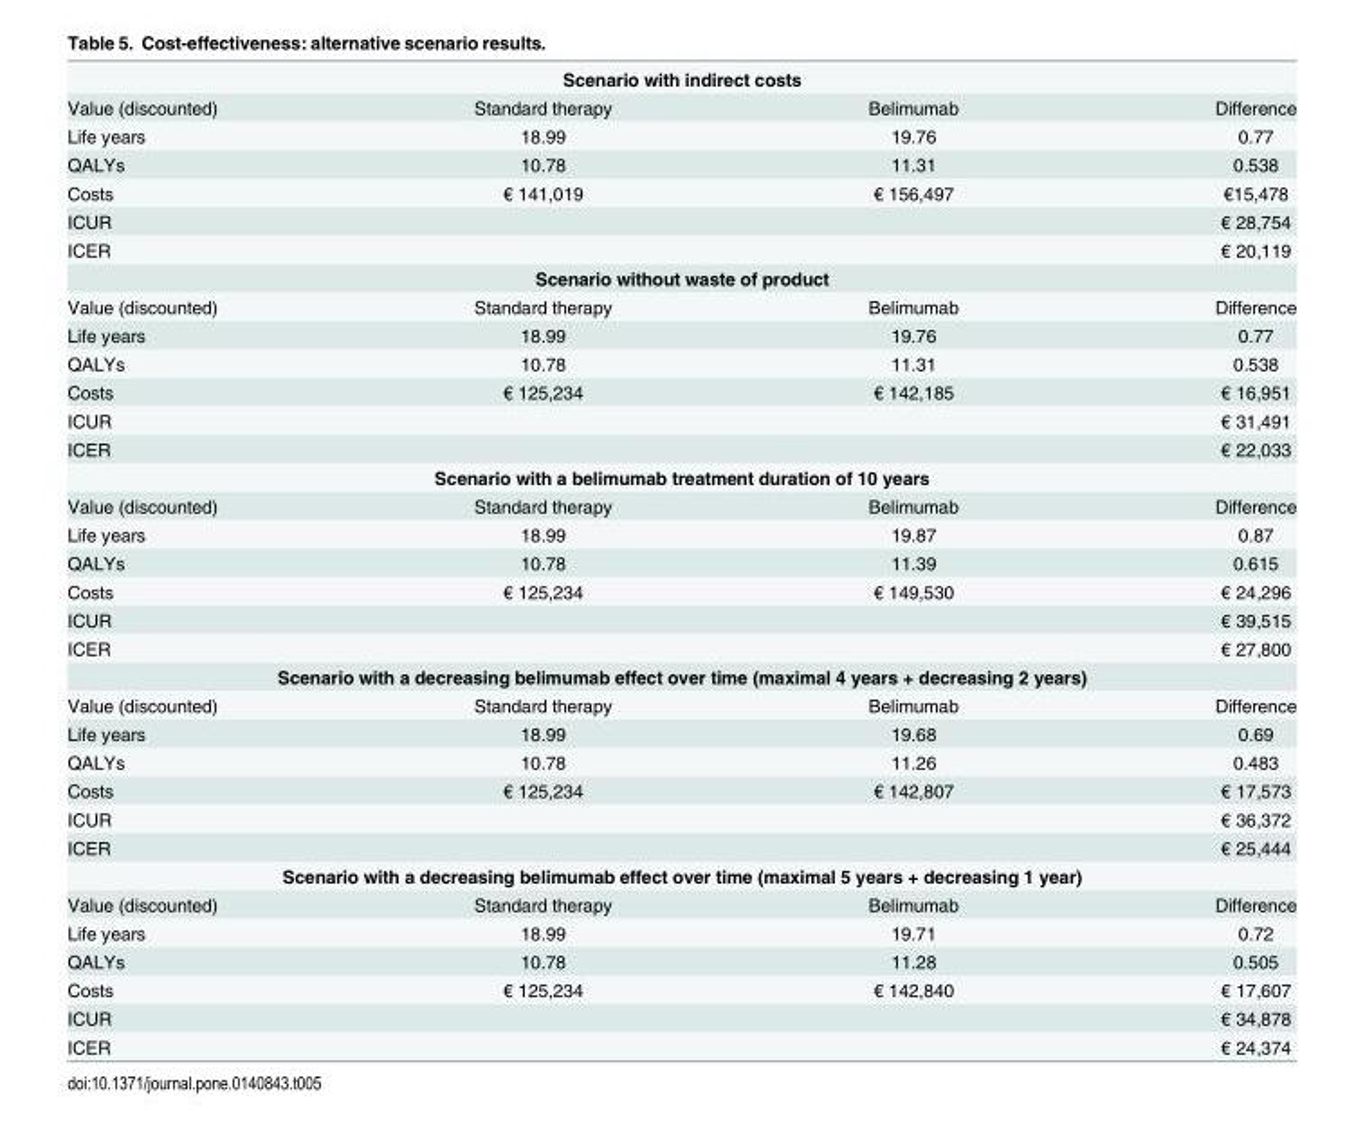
<table><tbody><tr><td colspan="4">Scenario with indirect costs</td></tr><tr><td>Value (discounted)</td><td>Standard therapy</td><td>Belimumab</td><td>Difference</td></tr><tr><td>Life years</td><td>18.99</td><td>19.76</td><td>0.77</td></tr><tr><td>QALYs</td><td>10.78</td><td>11.31</td><td>0.538</td></tr><tr><td>Costs</td><td>€ 141,019</td><td>€ 156,497</td><td>€15,478</td></tr><tr><td>ICUR</td><td></td><td></td><td>€ 28,754</td></tr><tr><td>ICER</td><td></td><td></td><td>€ 20,119</td></tr><tr><td colspan="4">Scenario without waste of product</td></tr><tr><td>Value (discounted)</td><td>Standard therapy</td><td>Belimumab</td><td>Difference</td></tr><tr><td>Life years</td><td>18.99</td><td>19.76</td><td>0.77</td></tr><tr><td>QALYs</td><td>10.78</td><td>11.31</td><td>0.538</td></tr><tr><td>Costs</td><td>€ 125,234</td><td>€ 142,185</td><td>€ 16,951</td></tr><tr><td>ICUR</td><td></td><td></td><td>€ 31,491</td></tr><tr><td>ICER</td><td></td><td></td><td>€ 22,033</td></tr><tr><td colspan="4">Scenario with a belimumab treatment duration of 10 years</td></tr><tr><td>Value (discounted)</td><td>Standard therapy</td><td>Belimumab</td><td>Difference</td></tr><tr><td>Life years</td><td>18.99</td><td>19.87</td><td>0.87</td></tr><tr><td>QALYs</td><td>10.78</td><td>11.39</td><td>0.615</td></tr><tr><td>Costs</td><td>€ 125,234</td><td>€ 149,530</td><td>€ 24,296</td></tr><tr><td>ICUR</td><td></td><td></td><td>€ 39,515</td></tr><tr><td>ICER</td><td></td><td></td><td>€ 27,800</td></tr><tr><td colspan="4">Scenario with a decreasing belimumab effect over time (maximal 4 years + decreasing 2 years)</td></tr><tr><td>Value (discounted)</td><td>Standard therapy</td><td>Belimumab</td><td>Difference</td></tr><tr><td>Life years</td><td>18.99</td><td>19.68</td><td>0.69</td></tr><tr><td>QALYs</td><td>10.78</td><td>11.26</td><td>0.483</td></tr><tr><td>Costs</td><td>€ 125,234</td><td>€ 142,807</td><td>€ 17,573</td></tr><tr><td>ICUR</td><td></td><td></td><td>€ 36,372</td></tr><tr><td>ICER</td><td></td><td></td><td>€ 25,444</td></tr><tr><td colspan="4">Scenario with a decreasing belimumab effect over time (maximal 5 years + decreasing 1 year)</td></tr><tr><td>Value (discounted)</td><td>Standard therapy</td><td>Belimumab</td><td>Difference</td></tr><tr><td>Life years</td><td>18.99</td><td>19.71</td><td>0.72</td></tr><tr><td>QALYs</td><td>10.78</td><td>11.28</td><td>0.505</td></tr><tr><td>Costs</td><td>€ 125,234</td><td>€ 142,840</td><td>€ 17,607</td></tr><tr><td>ICUR</td><td></td><td></td><td>€ 34,878</td></tr><tr><td>ICER</td><td></td><td></td><td>€ 24,374</td></tr></tbody></table>